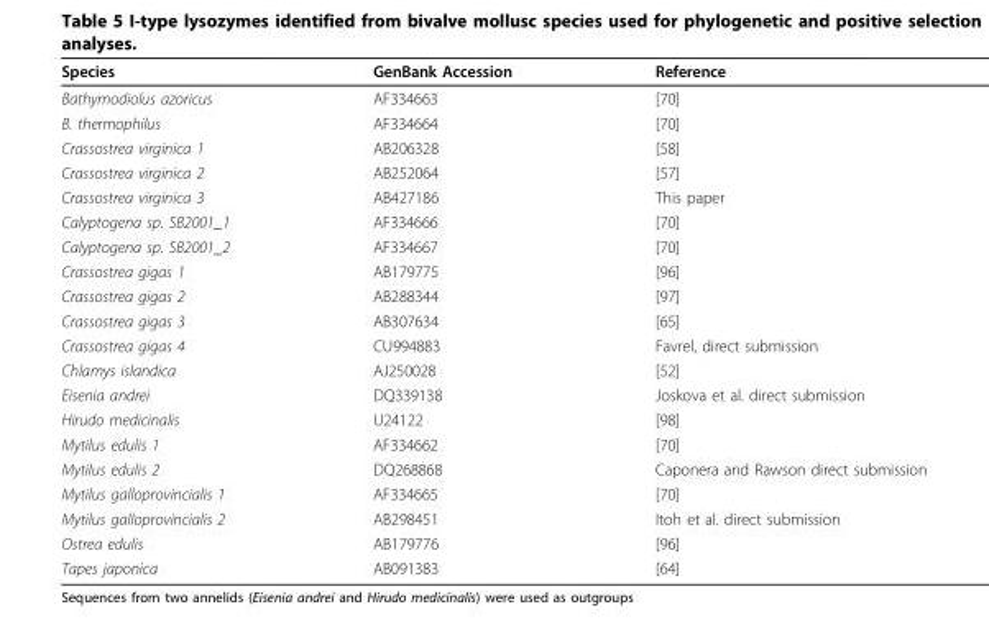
<table><thead><tr><td>Species</td><td>GenBank Accession</td><td>Reference</td></tr></thead><tbody><tr><td>Bathymodiolus azoricus</td><td>AF334663</td><td>[70]</td></tr><tr><td>B. thermophilus</td><td>AF334664</td><td>[70]</td></tr><tr><td>Crassostrea virginica 1</td><td>AB206328</td><td>[58]</td></tr><tr><td>Crassostrea virginica 2</td><td>AB252064</td><td>[57]</td></tr><tr><td>Crassostrea virginica 3</td><td>AB427186</td><td>This paper</td></tr><tr><td>Calyptogena sp. SB2001_1</td><td>AF334666</td><td>[70]</td></tr><tr><td>Calyptogena sp. SB2001_2</td><td>AF334667</td><td>[70]</td></tr><tr><td>Crassostrea gigas 1</td><td>AB179775</td><td>[96]</td></tr><tr><td>Crassostrea gigas 2</td><td>AB288344</td><td>[97]</td></tr><tr><td>Crassostrea gigas 3</td><td>AB307634</td><td>[65]</td></tr><tr><td>Crassostrea gigas 4</td><td>CU994883</td><td>Favrel, direct submission</td></tr><tr><td>Chlamys islandica</td><td>AJ250028</td><td>[52]</td></tr><tr><td>Eisenia andrei</td><td>DQ339138</td><td>Joskova et al. direct submission</td></tr><tr><td>Hirudo medicinalis</td><td>U24122</td><td>[98]</td></tr><tr><td>Mytilus edulis 1</td><td>AF334662</td><td>[70]</td></tr><tr><td>Mytilus edulis 2</td><td>DQ268868</td><td>Caponera and Rawson direct submission</td></tr><tr><td>Mytilus galloprovincialis 1</td><td>AF334665</td><td>[70]</td></tr><tr><td>Mytilus galloprovincialis 2</td><td>AB298451</td><td>Itoh et al. direct submission</td></tr><tr><td>Ostrea edulis</td><td>AB179776</td><td>[96]</td></tr><tr><td>Tapes japonica</td><td>AB091383</td><td>[64]</td></tr></tbody></table>